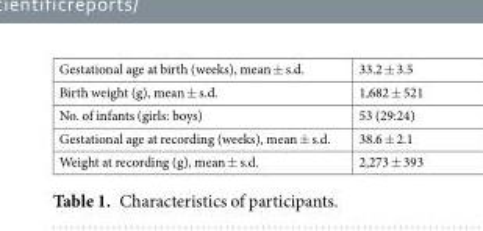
<table><tbody><tr><td>Gestational age at birth (weeks), mean ± s.d.</td><td>33.2 ± 3.5</td></tr><tr><td>Birth weight (g), mean ± s.d.</td><td>1,682 ± 521</td></tr><tr><td>No. of infants (girls: boys)</td><td>53 (29:24)</td></tr><tr><td>Gestational age at recording (weeks), mean ± s.d.</td><td>38.6 ± 2.1</td></tr><tr><td>Weight at recording (g), mean ± s.d.</td><td>2,273 ± 393</td></tr></tbody></table>